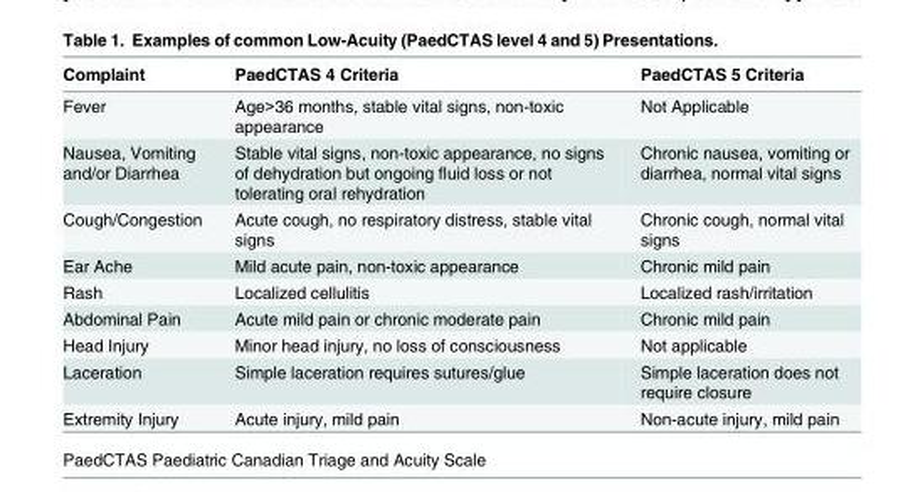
<table><thead><tr><td>Complaint</td><td>PaedCTAS 4 Criteria</td><td>PaedCTAS 5 Criteria</td></tr></thead><tbody><tr><td>Fever</td><td>Age&gt;36 months, stable vital signs, non-toxic appearance</td><td>Not Applicable</td></tr><tr><td>Nausea, Vomiting and/or Diarrhea</td><td>Stable vital signs, non-toxic appearance, no signs of dehydration but ongoing fluid loss or not tolerating oral rehydration</td><td>Chronic nausea, vomiting or diarrhea, normal vital signs</td></tr><tr><td>Cough/Congestion</td><td>Acute cough, no respiratory distress, stable vital signs</td><td>Chronic cough, normal vital signs</td></tr><tr><td>Ear Ache</td><td>Mild acute pain, non-toxic appearance</td><td>Chronic mild pain</td></tr><tr><td>Rash</td><td>Localized cellulitis</td><td>Localized rash/irritation</td></tr><tr><td>Abdominal Pain</td><td>Acute mild pain or chronic moderate pain</td><td>Chronic mild pain</td></tr><tr><td>Head Injury</td><td>Minor head injury, no loss of consciousness</td><td>Not applicable</td></tr><tr><td>Laceration</td><td>Simple laceration requires sutures/glue</td><td>Simple laceration does not require closure</td></tr><tr><td>Extremity Injury</td><td>Acute injury, mild pain</td><td>Non-acute injury, mild pain</td></tr></tbody></table>